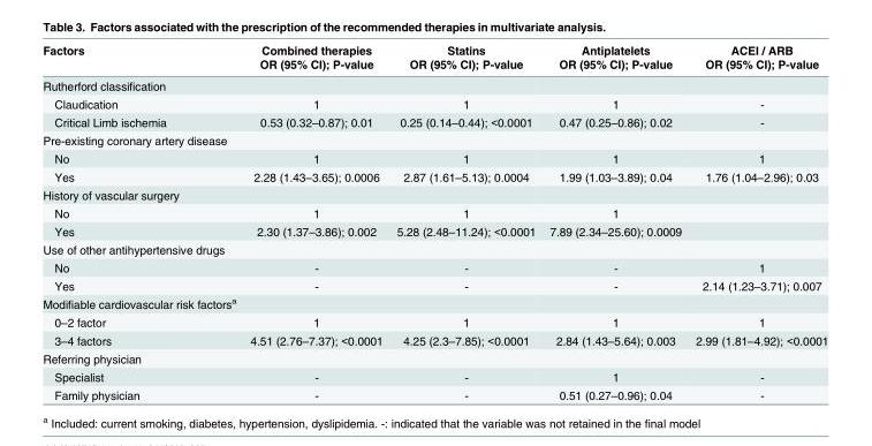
<table><thead><tr><td rowspan="2">Factors</td><td rowspan="2">Combined therapies OR (95% CI); P-value</td><td rowspan="2">Statins OR (95% CI); P-value</td><td rowspan="2">Antiplatelets OR (95% CI); P-value</td><td rowspan="2">ACEI / ARB OR (95% CI); P-value</td></tr><tr></tr></thead><tbody><tr><td colspan="5">Rutherford classification</td></tr><tr><td>Claudication</td><td>1</td><td>1</td><td>1</td><td>-</td></tr><tr><td>Critical Limb ischemia</td><td>0.53 (0.32–0.87); 0.01</td><td>0.25 (0.14–0.44); &lt;0.0001</td><td>0.47 (0.25–0.86); 0.02</td><td>-</td></tr><tr><td colspan="5">Pre-existing coronary artery disease</td></tr><tr><td>No</td><td>1</td><td>1</td><td>1</td><td>1</td></tr><tr><td>Yes</td><td>2.28 (1.43–3.65); 0.0006</td><td>2.87 (1.61–5.13); 0.0004</td><td>1.99 (1.03–3.89); 0.04</td><td>1.76 (1.04–2.96); 0.03</td></tr><tr><td colspan="5">History of vascular surgery</td></tr><tr><td>No</td><td>1</td><td>1</td><td>1</td><td></td></tr><tr><td>Yes</td><td>2.30 (1.37–3.86); 0.002</td><td>5.28 (2.48–11.24); &lt;0.0001</td><td>7.89 (2.34–25.60); 0.0009</td><td></td></tr><tr><td colspan="5">Use of other antihypertensive drugs</td></tr><tr><td>No</td><td>-</td><td>-</td><td>-</td><td>1</td></tr><tr><td>Yes</td><td>-</td><td>-</td><td>-</td><td>2.14 (1.23–3.71); 0.007</td></tr><tr><td colspan="5">Modifiable cardiovascular risk factors<sup>a</sup></td></tr><tr><td>0–2 factor</td><td>1</td><td>1</td><td>1</td><td>1</td></tr><tr><td>3–4 factors</td><td>4.51 (2.76–7.37); &lt;0.0001</td><td>4.25 (2.3–7.85); &lt;0.0001</td><td>2.84 (1.43–5.64); 0.003</td><td>2.99 (1.81–4.92); &lt;0.0001</td></tr><tr><td colspan="5">Referring physician</td></tr><tr><td>Specialist</td><td>-</td><td>-</td><td>1</td><td>-</td></tr><tr><td>Family physician</td><td>-</td><td>-</td><td>0.51 (0.27–0.96); 0.04</td><td>-</td></tr></tbody></table>